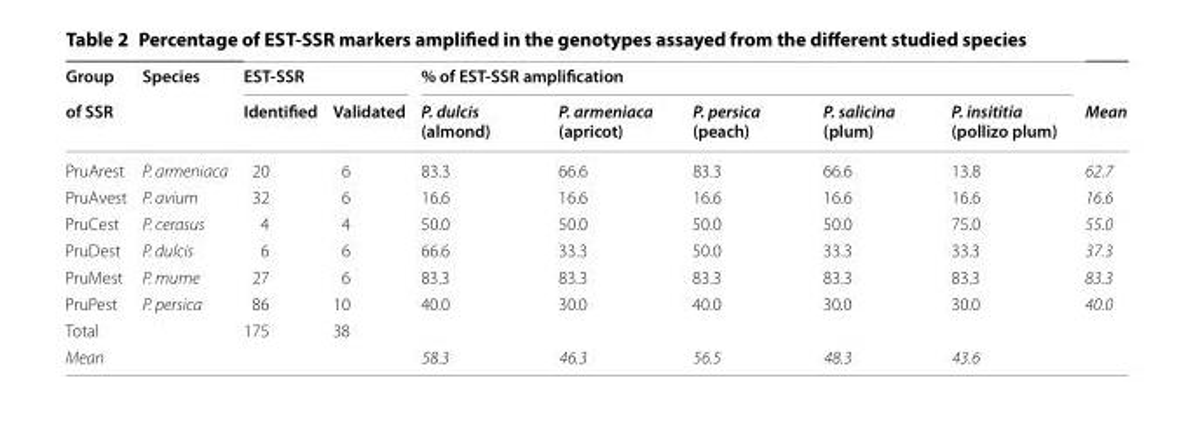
<table><thead><tr><td rowspan="2">Group of SSR</td><td rowspan="2">Species</td><td colspan="2">EST‑SSR</td><td colspan="5">% of EST‑SSR amplification</td><td rowspan="2">Mean</td></tr><tr><td>Identified</td><td>Validated</td><td>P. dulcis (almond)</td><td>P. armeniaca (apricot)</td><td>P. persica (peach)</td><td>P. salicina (plum)</td><td>P. insititia (pollizo plum)</td></tr></thead><tbody><tr><td>PruArest</td><td>P. armeniaca</td><td>20</td><td>6</td><td>83.3</td><td>66.6</td><td>83.3</td><td>66.6</td><td>13.8</td><td>62.7</td></tr><tr><td>PruAvest</td><td>P. avium</td><td>32</td><td>6</td><td>16.6</td><td>16.6</td><td>16.6</td><td>16.6</td><td>16.6</td><td>16.6</td></tr><tr><td>PruCest</td><td>P. cerasus</td><td>4</td><td>4</td><td>50.0</td><td>50.0</td><td>50.0</td><td>50.0</td><td>75.0</td><td>55.0</td></tr><tr><td>PruDest</td><td>P. dulcis</td><td>6</td><td>6</td><td>66.6</td><td>33.3</td><td>50.0</td><td>33.3</td><td>33.3</td><td>37.3</td></tr><tr><td>PruMest</td><td>P. mume</td><td>27</td><td>6</td><td>83.3</td><td>83.3</td><td>83.3</td><td>83.3</td><td>83.3</td><td>83.3</td></tr><tr><td>PruPest</td><td>P. persica</td><td>86</td><td>10</td><td>40.0</td><td>30.0</td><td>40.0</td><td>30.0</td><td>30.0</td><td>40.0</td></tr><tr><td>Total</td><td></td><td>175</td><td>38</td><td></td><td></td><td></td><td></td><td></td><td></td></tr><tr><td>Mean</td><td></td><td></td><td></td><td>58.3</td><td>46.3</td><td>56.5</td><td>48.3</td><td>43.6</td><td></td></tr></tbody></table>